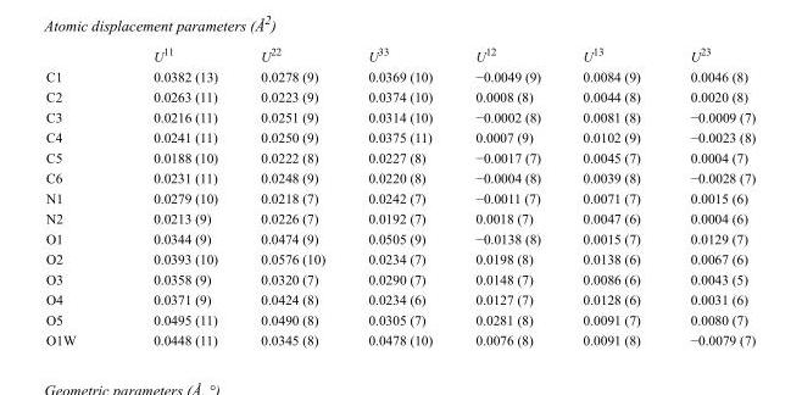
<table><thead><tr><td></td><td>U<sup>11</sup></td><td>U<sup>22</sup></td><td>U<sup>33</sup></td><td>U<sup>12</sup></td><td>U<sup>13</sup></td><td>U<sup>23</sup></td></tr></thead><tbody><tr><td>C1</td><td>0.0382 (13)</td><td>0.0278 (9)</td><td>0.0369 (10)</td><td>−0.0049 (9)</td><td>0.0084 (9)</td><td>0.0046 (8)</td></tr><tr><td>C2</td><td>0.0263 (11)</td><td>0.0223 (9)</td><td>0.0374 (10)</td><td>0.0008 (8)</td><td>0.0044 (8)</td><td>0.0020 (8)</td></tr><tr><td>C3</td><td>0.0216 (11)</td><td>0.0251 (9)</td><td>0.0314 (10)</td><td>−0.0002 (8)</td><td>0.0081 (8)</td><td>−0.0009 (7)</td></tr><tr><td>C4</td><td>0.0241 (11)</td><td>0.0250 (9)</td><td>0.0375 (11)</td><td>0.0007 (9)</td><td>0.0102 (9)</td><td>−0.0023 (8)</td></tr><tr><td>C5</td><td>0.0188 (10)</td><td>0.0222 (8)</td><td>0.0227 (8)</td><td>−0.0017 (7)</td><td>0.0045 (7)</td><td>0.0004 (7)</td></tr><tr><td>C6</td><td>0.0231 (11)</td><td>0.0248 (9)</td><td>0.0220 (8)</td><td>−0.0004 (8)</td><td>0.0039 (8)</td><td>−0.0028 (7)</td></tr><tr><td>N1</td><td>0.0279 (10)</td><td>0.0218 (7)</td><td>0.0242 (7)</td><td>−0.0011 (7)</td><td>0.0071 (7)</td><td>0.0015 (6)</td></tr><tr><td>N2</td><td>0.0213 (9)</td><td>0.0226 (7)</td><td>0.0192 (7)</td><td>0.0018 (7)</td><td>0.0047 (6)</td><td>0.0004 (6)</td></tr><tr><td>O1</td><td>0.0344 (9)</td><td>0.0474 (9)</td><td>0.0505 (9)</td><td>−0.0138 (8)</td><td>0.0015 (7)</td><td>0.0129 (7)</td></tr><tr><td>O2</td><td>0.0393 (10)</td><td>0.0576 (10)</td><td>0.0234 (7)</td><td>0.0198 (8)</td><td>0.0138 (6)</td><td>0.0067 (6)</td></tr><tr><td>O3</td><td>0.0358 (9)</td><td>0.0320 (7)</td><td>0.0290 (7)</td><td>0.0148 (7)</td><td>0.0086 (6)</td><td>0.0043 (5)</td></tr><tr><td>O4</td><td>0.0371 (9)</td><td>0.0424 (8)</td><td>0.0234 (6)</td><td>0.0127 (7)</td><td>0.0128 (6)</td><td>0.0031 (6)</td></tr><tr><td>O5</td><td>0.0495 (11)</td><td>0.0490 (8)</td><td>0.0305 (7)</td><td>0.0281 (8)</td><td>0.0091 (7)</td><td>0.0080 (7)</td></tr><tr><td>O1W</td><td>0.0448 (11)</td><td>0.0345 (8)</td><td>0.0478 (10)</td><td>0.0076 (8)</td><td>0.0091 (8)</td><td>−0.0079 (7)</td></tr></tbody></table>